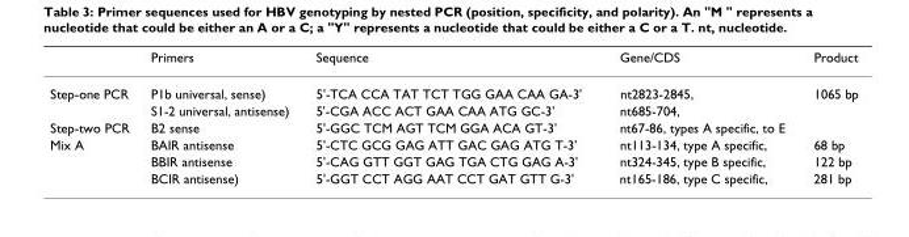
<table><thead><tr><td></td><td>Primers</td><td>Sequence</td><td>Gene/CDS</td><td>Product</td></tr></thead><tbody><tr><td rowspan="2">Step-one PCR</td><td>P1b universal, sense)</td><td>5&#x27;-TCA CCA TAT TCT TGG GAA CAA GA-3&#x27;</td><td>nt2823-2845,</td><td>1065 bp</td></tr><tr><td>S1-2 universal, antisense)</td><td>5&#x27;-CGA ACC ACT GAA CAA ATG GC-3&#x27;</td><td>nt685-704,</td><td></td></tr><tr><td>Step-two PCR</td><td>B2 sense</td><td>5&#x27;-GGC TCM AGT TCM GGA ACA GT-3&#x27;</td><td>nt67-86, types A specific, to E</td><td></td></tr><tr><td rowspan="3">Mix A</td><td>BAIR antisense</td><td>5&#x27;-CTC GCG GAG ATT GAC GAG ATG T-3&#x27;</td><td>nt113-134, type A specific,</td><td>68 bp</td></tr><tr><td>BBIR antisense</td><td>5&#x27;-CAG GTT GGT GAG TGA CTG GAG A-3&#x27;</td><td>nt324-345, type B specific,</td><td>122 bp</td></tr><tr><td>BCIR antisense)</td><td>5&#x27;-GGT CCT AGG AAT CCT GAT GTT G-3&#x27;</td><td>nt165-186, type C specific,</td><td>281 bp</td></tr></tbody></table>